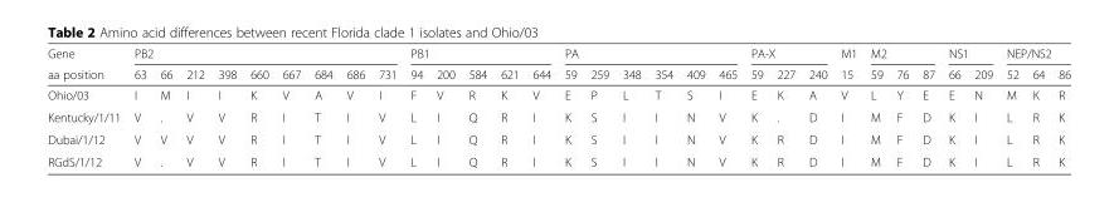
<table><thead><tr><td rowspan="2">Gene aa position</td><td colspan="9">PB2</td><td colspan="5">PB1</td><td colspan="6">PA</td><td colspan="3">PA-X</td><td rowspan="2">M1 15</td><td colspan="3">M2</td><td colspan="2">NS1</td><td colspan="3">NEP/NS2</td></tr><tr><td>63</td><td>66</td><td>212</td><td>398</td><td>660</td><td>667</td><td>684</td><td>686</td><td>731</td><td>94</td><td>200</td><td>584</td><td>621</td><td>644</td><td>59</td><td>259</td><td>348</td><td>354</td><td>409</td><td>465</td><td>59</td><td>227</td><td>240</td><td>59</td><td>76</td><td>87</td><td>66</td><td>209</td><td>52</td><td>64</td><td>86</td></tr></thead><tbody><tr><td>Ohio/03</td><td>I</td><td>M</td><td>I</td><td>I</td><td>K</td><td>V</td><td>A</td><td>V</td><td>I</td><td>F</td><td>V</td><td>R</td><td>K</td><td>V</td><td>E</td><td>P</td><td>L</td><td>T</td><td>S</td><td>I</td><td>E</td><td>K</td><td>A</td><td>V</td><td>L</td><td>Y</td><td>E</td><td>E</td><td>N</td><td>M</td><td>K</td><td>R</td></tr><tr><td>Kentucky/1/11</td><td>V</td><td>.</td><td>V</td><td>V</td><td>R</td><td>I</td><td>T</td><td>I</td><td>V</td><td>L</td><td>I</td><td>Q</td><td>R</td><td>I</td><td>K</td><td>S</td><td>I</td><td>I</td><td>N</td><td>V</td><td>K</td><td>.</td><td>D</td><td>I</td><td>M</td><td>F</td><td>D</td><td>K</td><td>I</td><td>L</td><td>R</td><td>K</td></tr><tr><td>Dubai/1/12</td><td>V</td><td>V</td><td>V</td><td>V</td><td>R</td><td>I</td><td>T</td><td>I</td><td>V</td><td>L</td><td>I</td><td>Q</td><td>R</td><td>I</td><td>K</td><td>S</td><td>I</td><td>I</td><td>N</td><td>V</td><td>K</td><td>R</td><td>D</td><td>I</td><td>M</td><td>F</td><td>D</td><td>K</td><td>I</td><td>L</td><td>R</td><td>K</td></tr><tr><td>RGdS/1/12</td><td>V</td><td>.</td><td>V</td><td>V</td><td>R</td><td>I</td><td>T</td><td>I</td><td>V</td><td>L</td><td>I</td><td>Q</td><td>R</td><td>I</td><td>K</td><td>S</td><td>I</td><td>I</td><td>N</td><td>V</td><td>K</td><td>R</td><td>D</td><td>I</td><td>M</td><td>F</td><td>D</td><td>K</td><td>I</td><td>L</td><td>R</td><td>K</td></tr></tbody></table>